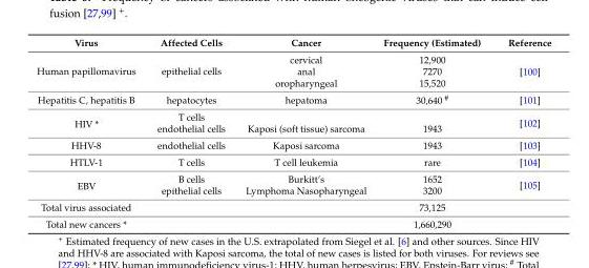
<table><thead><tr><td>Virus</td><td>Affected Cells</td><td>Cancer</td><td>Frequency (Estimated)</td><td>Reference</td></tr></thead><tbody><tr><td rowspan="3">Human papillomavirus</td><td rowspan="3">epithelial cells</td><td>cervical</td><td>12,900</td><td rowspan="3">[100]</td></tr><tr><td>anal</td><td>7270</td></tr><tr><td>oropharyngeal</td><td>15,520</td></tr><tr><td>Hepatitis C, hepatitis B</td><td>hepatocytes</td><td>hepatoma</td><td>30,640 <sup>#</sup></td><td>[101]</td></tr><tr><td rowspan="2">HIV *</td><td>T cells</td><td></td><td></td><td rowspan="2">[102]</td></tr><tr><td>endothelial cells</td><td>Kaposi (soft tissue) sarcoma</td><td>1943</td></tr><tr><td>HHV-8</td><td>endothelial cells</td><td>Kaposi sarcoma</td><td>1943</td><td>[103]</td></tr><tr><td>HTLV-1</td><td>T cells</td><td>T cell leukemia</td><td>rare</td><td>[104]</td></tr><tr><td rowspan="2">EBV</td><td>B cells</td><td>Burkitt’s</td><td>1652</td><td rowspan="2">[105]</td></tr><tr><td>epithelial cells</td><td>Lymphoma Nasopharyngeal</td><td>3200</td></tr><tr><td>Total virus associated</td><td></td><td></td><td>73,125</td><td></td></tr><tr><td>Total new cancers *</td><td></td><td></td><td>1,660,290</td><td></td></tr></tbody></table>